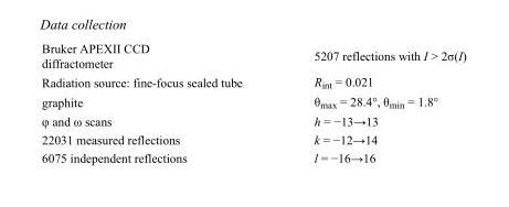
<table><tbody><tr><td>Bruker APEXII CCD diffractometer</td><td>5207 reflections with I &gt; 2σ(I)</td></tr><tr><td>Radiation source: fine-focus sealed tube</td><td>R<sub>int</sub> = 0.021</td></tr><tr><td>graphite</td><td>θ<sub>max</sub> = 28.4°, θ<sub>min</sub> = 1.8°</td></tr><tr><td>φ and ω scans</td><td>h = −13→13</td></tr><tr><td>22031 measured reflections</td><td>k = −12→14</td></tr><tr><td>6075 independent reflections</td><td>l = −16→16</td></tr></tbody></table>